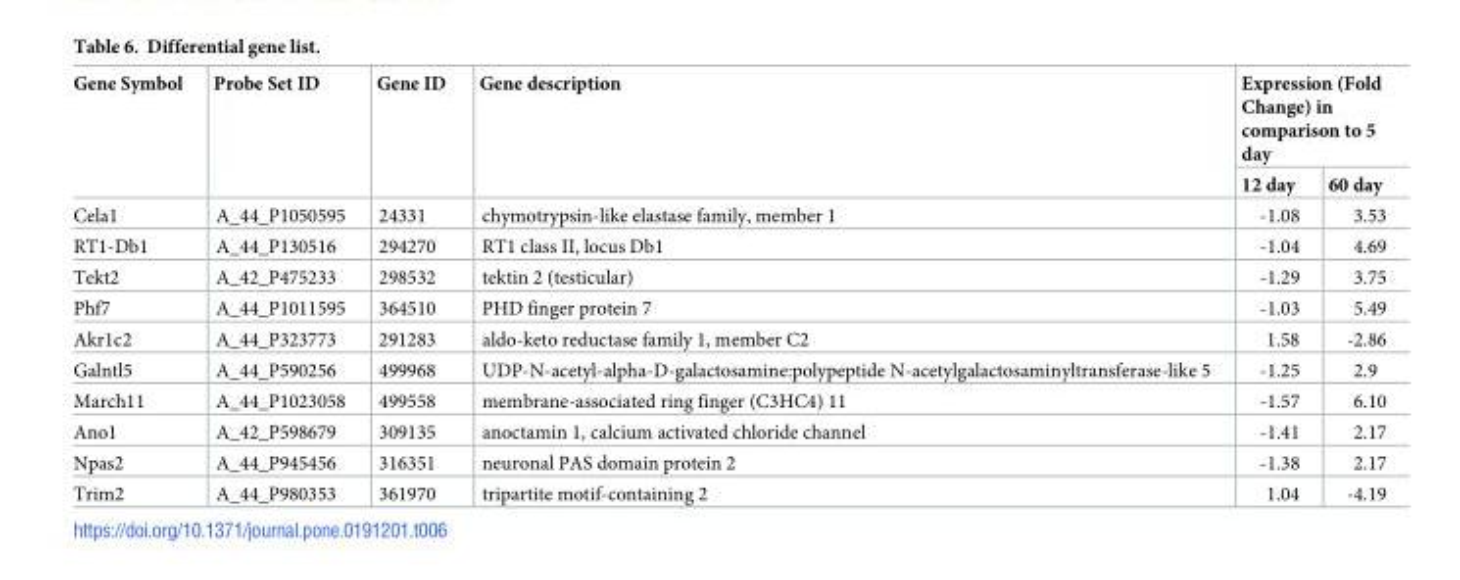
<table><thead><tr><td rowspan="2">Gene Symbol</td><td rowspan="2">Probe Set ID</td><td rowspan="2">Gene ID</td><td rowspan="2">Gene description</td><td colspan="2">Expression (Fold Change) in comparison to 5 day</td></tr><tr><td>12 day</td><td>60 day</td></tr></thead><tbody><tr><td>Cela1</td><td>A_44_P1050595</td><td>24331</td><td>chymotrypsin-like elastase family, member 1</td><td>-1.08</td><td>3.53</td></tr><tr><td>RT1-Db1</td><td>A_44_P130516</td><td>294270</td><td>RT1 class II, locus Db1</td><td>-1.04</td><td>4.69</td></tr><tr><td>Tekt2</td><td>A_42_P475233</td><td>298532</td><td>tektin 2 (testicular)</td><td>-1.29</td><td>3.75</td></tr><tr><td>Phf7</td><td>A_44_P1011595</td><td>364510</td><td>PHD finger protein 7</td><td>-1.03</td><td>5.49</td></tr><tr><td>Akr1c2</td><td>A_44_P323773</td><td>291283</td><td>aldo-keto reductase family 1, member C2</td><td>1.58</td><td>-2.86</td></tr><tr><td>Galntl5</td><td>A_44_P590256</td><td>499968</td><td>UDP-N-acetyl-alpha-D-galactosamine:polypeptide N-acetylgalactosaminyltransferase-like 5</td><td>-1.25</td><td>2.9</td></tr><tr><td>March11</td><td>A_44_P1023058</td><td>499558</td><td>membrane-associated ring finger (C3HC4) 11</td><td>-1.57</td><td>6.10</td></tr><tr><td>Ano1</td><td>A_42_P598679</td><td>309135</td><td>anoctamin 1, calcium activated chloride channel</td><td>-1.41</td><td>2.17</td></tr><tr><td>Npas2</td><td>A_44_P945456</td><td>316351</td><td>neuronal PAS domain protein 2</td><td>-1.38</td><td>2.17</td></tr><tr><td>Trim2</td><td>A_44_P980353</td><td>361970</td><td>tripartite motif-containing 2</td><td>1.04</td><td>-4.19</td></tr></tbody></table>